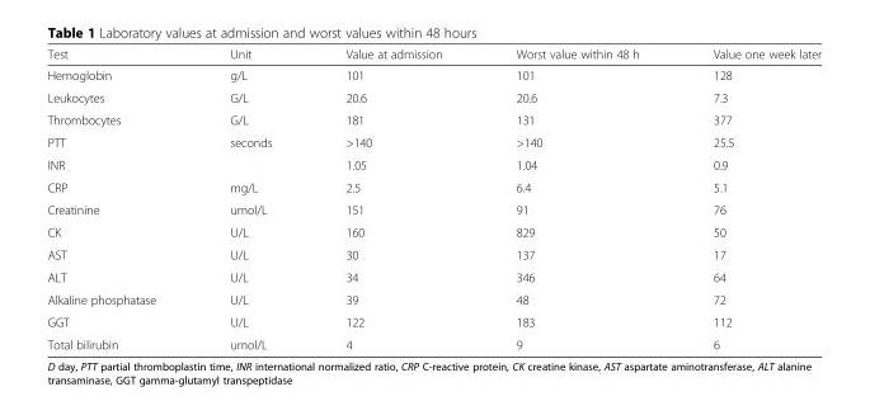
<table><thead><tr><td>Test</td><td>Unit</td><td>Value at admission</td><td>Worst value within 48 h</td><td>Value one week later</td></tr></thead><tbody><tr><td>Hemoglobin</td><td>g/L</td><td>101</td><td>101</td><td>128</td></tr><tr><td>Leukocytes</td><td>G/L</td><td>20.6</td><td>20.6</td><td>7.3</td></tr><tr><td>Thrombocytes</td><td>G/L</td><td>181</td><td>131</td><td>377</td></tr><tr><td>PTT</td><td>seconds</td><td>&gt;140</td><td>&gt;140</td><td>25.5</td></tr><tr><td>INR</td><td></td><td>1.05</td><td>1.04</td><td>0.9</td></tr><tr><td>CRP</td><td>mg/L</td><td>2.5</td><td>6.4</td><td>5.1</td></tr><tr><td>Creatinine</td><td>umol/L</td><td>151</td><td>91</td><td>76</td></tr><tr><td>CK</td><td>U/L</td><td>160</td><td>829</td><td>50</td></tr><tr><td>AST</td><td>U/L</td><td>30</td><td>137</td><td>17</td></tr><tr><td>ALT</td><td>U/L</td><td>34</td><td>346</td><td>64</td></tr><tr><td>Alkaline phosphatase</td><td>U/L</td><td>39</td><td>48</td><td>72</td></tr><tr><td>GGT</td><td>U/L</td><td>122</td><td>183</td><td>112</td></tr><tr><td>Total bilirubin</td><td>umol/L</td><td>4</td><td>9</td><td>6</td></tr></tbody></table>